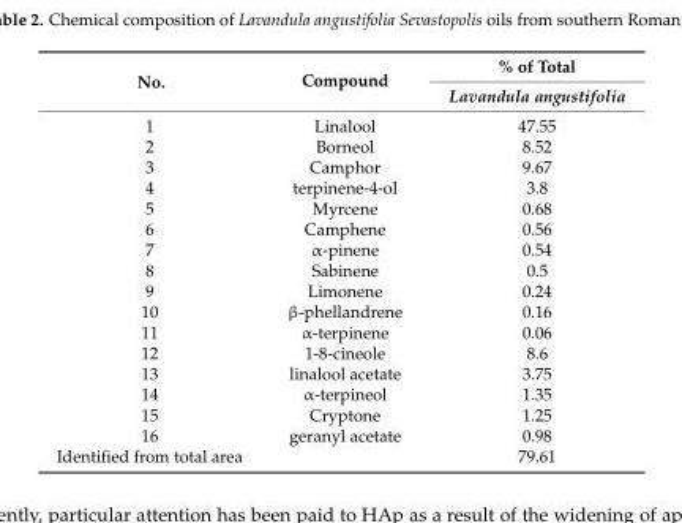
<table><thead><tr><td rowspan="2">No.</td><td rowspan="2">Compound</td><td rowspan="2">% of Total Lavandula angustifolia</td></tr><tr></tr></thead><tbody><tr><td>1</td><td>Linalool</td><td>47.55</td></tr><tr><td>2</td><td>Borneol</td><td>8.52</td></tr><tr><td>3</td><td>Camphor</td><td>9.67</td></tr><tr><td>4</td><td>terpinene-4-ol</td><td>3.8</td></tr><tr><td>5</td><td>Myrcene</td><td>0.68</td></tr><tr><td>6</td><td>Camphene</td><td>0.56</td></tr><tr><td>7</td><td>α-pinene</td><td>0.54</td></tr><tr><td>8</td><td>Sabinene</td><td>0.5</td></tr><tr><td>9</td><td>Limonene</td><td>0.24</td></tr><tr><td>10</td><td>β-phellandrene</td><td>0.16</td></tr><tr><td>11</td><td>α-terpinene</td><td>0.06</td></tr><tr><td>12</td><td>1-8-cineole</td><td>8.6</td></tr><tr><td>13</td><td>linalool acetate</td><td>3.75</td></tr><tr><td>14</td><td>α-terpineol</td><td>1.35</td></tr><tr><td>15</td><td>Cryptone</td><td>1.25</td></tr><tr><td>16</td><td>geranyl acetate</td><td>0.98</td></tr><tr><td>Identified from total area</td><td></td><td>79.61</td></tr></tbody></table>